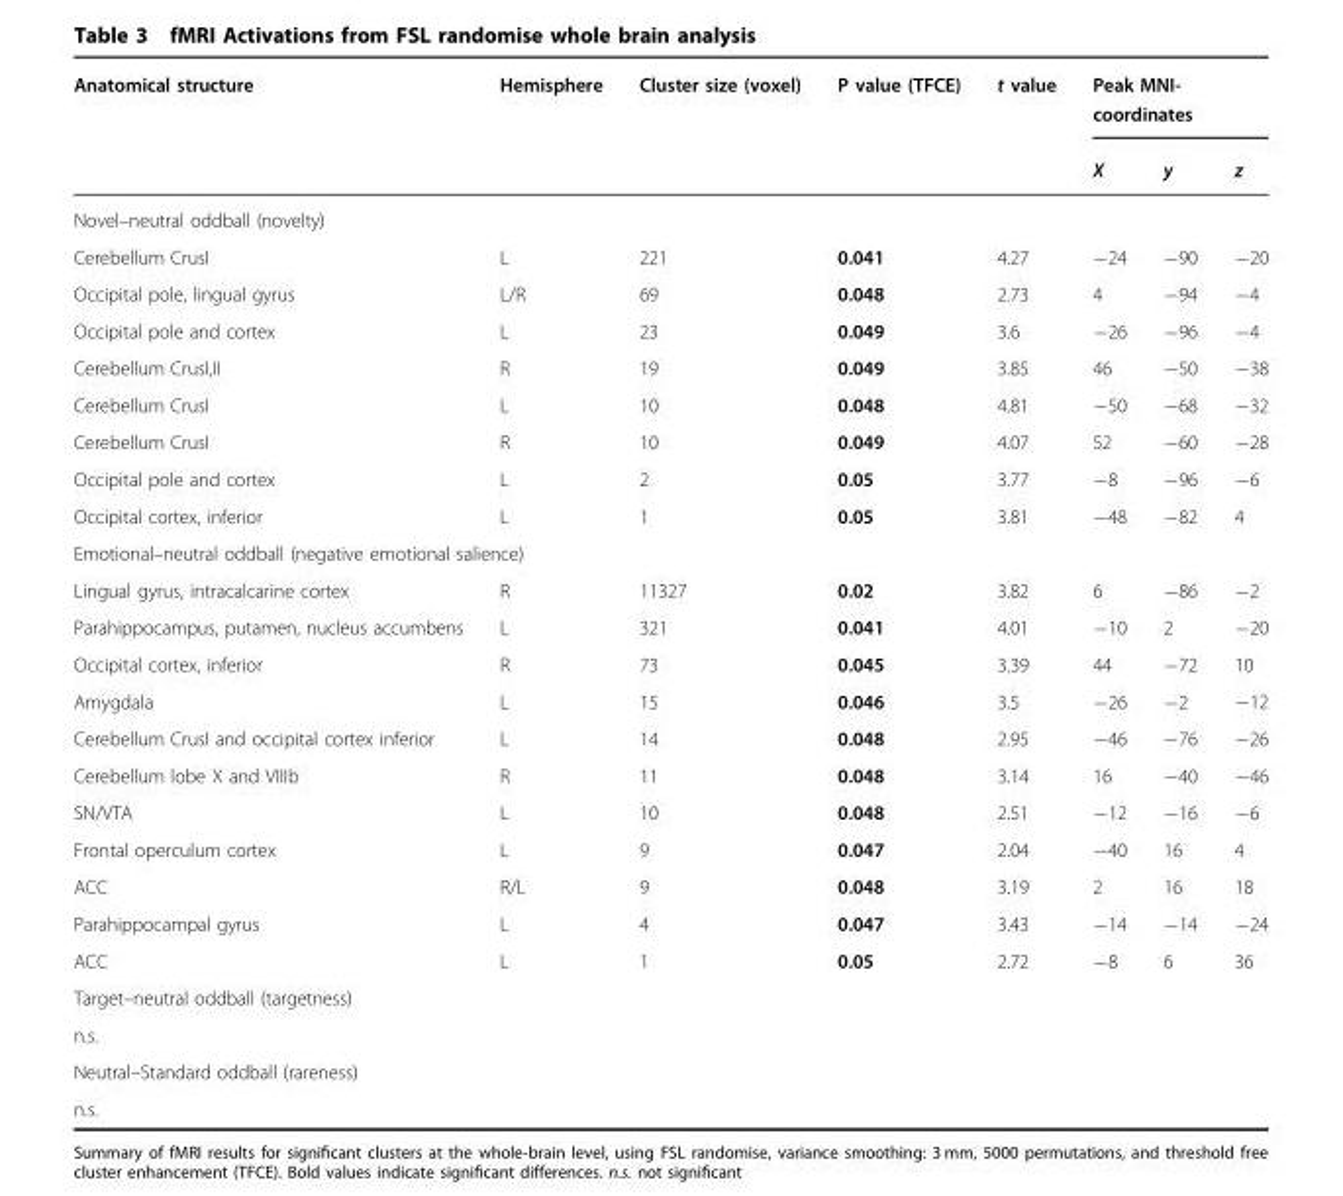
<table><thead><tr><td rowspan="2">Anatomical structure</td><td rowspan="2">Hemisphere</td><td rowspan="2">Cluster size (voxel)</td><td rowspan="2">P value (TFCE)</td><td rowspan="2">t value</td><td colspan="3">Peak MNI- coordinates</td></tr><tr><td>X</td><td>y</td><td>z</td></tr></thead><tbody><tr><td colspan="8">Novel–neutral oddball (novelty)</td></tr><tr><td>Cerebellum CrusI</td><td>L</td><td>221</td><td>0.041</td><td>4.27</td><td>−24</td><td>−90</td><td>−20</td></tr><tr><td>Occipital pole, lingual gyrus</td><td>L/R</td><td>69</td><td>0.048</td><td>2.73</td><td>4</td><td>−94</td><td>−4</td></tr><tr><td>Occipital pole and cortex</td><td>L</td><td>23</td><td>0.049</td><td>3.6</td><td>−26</td><td>−96</td><td>−4</td></tr><tr><td>Cerebellum CrusI,II</td><td>R</td><td>19</td><td>0.049</td><td>3.85</td><td>46</td><td>−50</td><td>−38</td></tr><tr><td>Cerebellum CrusI</td><td>L</td><td>10</td><td>0.048</td><td>4.81</td><td>−50</td><td>−68</td><td>−32</td></tr><tr><td>Cerebellum CrusI</td><td>R</td><td>10</td><td>0.049</td><td>4.07</td><td>52</td><td>−60</td><td>−28</td></tr><tr><td>Occipital pole and cortex</td><td>L</td><td>2</td><td>0.05</td><td>3.77</td><td>−8</td><td>−96</td><td>−6</td></tr><tr><td>Occipital cortex, inferior</td><td>L</td><td>1</td><td>0.05</td><td>3.81</td><td>−48</td><td>−82</td><td>4</td></tr><tr><td colspan="8">Emotional–neutral oddball (negative emotional salience)</td></tr><tr><td>Lingual gyrus, intracalcarine cortex</td><td>R</td><td>11327</td><td>0.02</td><td>3.82</td><td>6</td><td>−86</td><td>−2</td></tr><tr><td>Parahippocampus, putamen, nucleus accumbens</td><td>L</td><td>321</td><td>0.041</td><td>4.01</td><td>−10</td><td>2</td><td>−20</td></tr><tr><td>Occipital cortex, inferior</td><td>R</td><td>73</td><td>0.045</td><td>3.39</td><td>44</td><td>−72</td><td>10</td></tr><tr><td>Amygdala</td><td>L</td><td>15</td><td>0.046</td><td>3.5</td><td>−26</td><td>−2</td><td>−12</td></tr><tr><td>Cerebellum CrusI and occipital cortex inferior</td><td>L</td><td>14</td><td>0.048</td><td>2.95</td><td>−46</td><td>−76</td><td>−26</td></tr><tr><td>Cerebellum lobe X and VIIIb</td><td>R</td><td>11</td><td>0.048</td><td>3.14</td><td>16</td><td>−40</td><td>−46</td></tr><tr><td>SN/VTA</td><td>L</td><td>10</td><td>0.048</td><td>2.51</td><td>−12</td><td>−16</td><td>−6</td></tr><tr><td>Frontal operculum cortex</td><td>L</td><td>9</td><td>0.047</td><td>2.04</td><td>−40</td><td>16</td><td>4</td></tr><tr><td>ACC</td><td>R/L</td><td>9</td><td>0.048</td><td>3.19</td><td>2</td><td>16</td><td>18</td></tr><tr><td>Parahippocampal gyrus</td><td>L</td><td>4</td><td>0.047</td><td>3.43</td><td>−14</td><td>−14</td><td>−24</td></tr><tr><td>ACC</td><td>L</td><td>1</td><td>0.05</td><td>2.72</td><td>−8</td><td>6</td><td>36</td></tr><tr><td colspan="8">Target–neutral oddball (targetness)</td></tr><tr><td colspan="8">n.s.</td></tr><tr><td colspan="8">Neutral–Standard oddball (rareness)</td></tr><tr><td colspan="8">n.s.</td></tr></tbody></table>